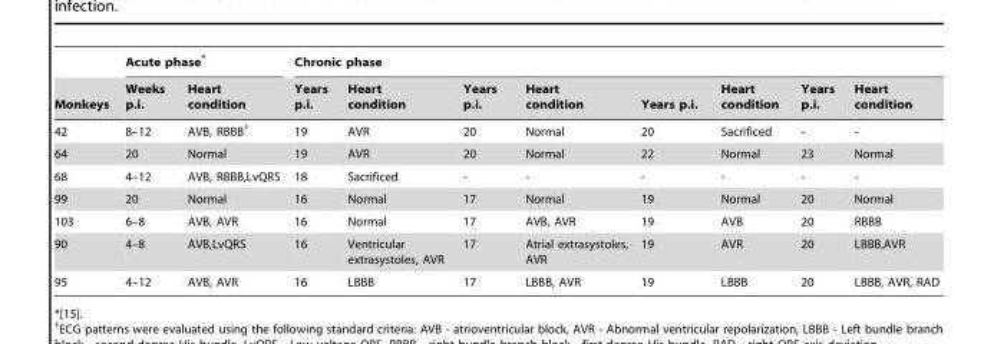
<table><thead><tr><td rowspan="2">Monkeys</td><td colspan="2">Acute phase*</td><td colspan="8">Chronic phase</td></tr><tr><td>Weeks p.i.</td><td>Heart condition</td><td>Years p.i.</td><td>Heart condition</td><td>Years p.i.</td><td>Heart condition</td><td>Years p.i.</td><td>Heart condition</td><td>Years p.i.</td><td>Heart condition</td></tr></thead><tbody><tr><td>42</td><td>8–12</td><td>AVB, RBBB†</td><td>19</td><td>AVR</td><td>20</td><td>Normal</td><td>20</td><td>Sacrificed</td><td>-</td><td>-</td></tr><tr><td>64</td><td>20</td><td>Normal</td><td>19</td><td>AVR</td><td>20</td><td>Normal</td><td>22</td><td>Normal</td><td>23</td><td>Normal</td></tr><tr><td>68</td><td>4–12</td><td>AVB, RBBB,LvQRS</td><td>18</td><td>Sacrificed</td><td>-</td><td>-</td><td>-</td><td>-</td><td>-</td><td>-</td></tr><tr><td>99</td><td>20</td><td>Normal</td><td>16</td><td>Normal</td><td>17</td><td>Normal</td><td>19</td><td>Normal</td><td>20</td><td>Normal</td></tr><tr><td>103</td><td>6–8</td><td>AVB, AVR</td><td>16</td><td>Normal</td><td>17</td><td>AVB, AVR</td><td>19</td><td>AVB</td><td>20</td><td>RBBB</td></tr><tr><td>90</td><td>4–8</td><td>AVB,LvQRS</td><td>16</td><td>Ventricular extrasystoles, AVR</td><td>17</td><td>Atrial extrasystoles, AVR</td><td>19</td><td>AVR</td><td>20</td><td>LBBB,AVR</td></tr><tr><td>95</td><td>4–12</td><td>AVB, AVR</td><td>16</td><td>LBBB</td><td>17</td><td>LBBB, AVR</td><td>19</td><td>LBBB</td><td>20</td><td>LBBB, AVR, RAD</td></tr></tbody></table>